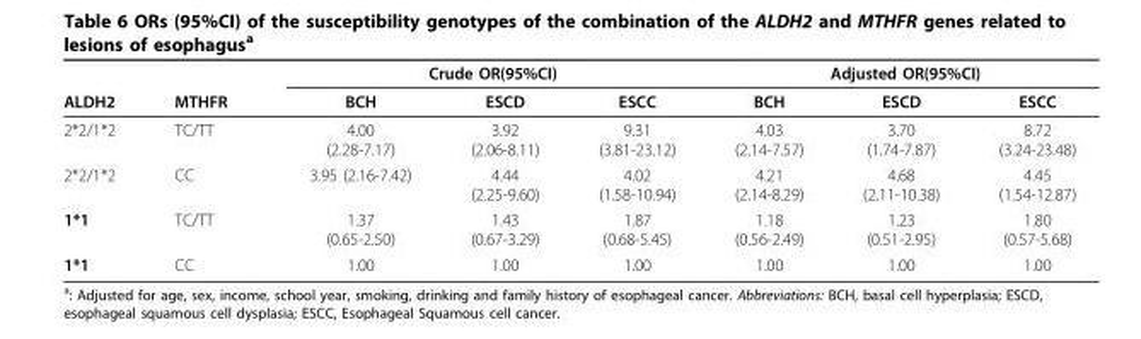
<table><thead><tr><td rowspan="2">ALDH2</td><td rowspan="2">MTHFR</td><td colspan="3">Crude OR(95%CI)</td><td colspan="3">Adjusted OR(95%CI)</td></tr><tr><td>BCH</td><td>ESCD</td><td>ESCC</td><td>BCH</td><td>ESCD</td><td>ESCC</td></tr></thead><tbody><tr><td>2*2/1*2</td><td>TC/TT</td><td>4.00 (2.28-7.17)</td><td>3.92 (2.06-8.11)</td><td>9.31 (3.81-23.12)</td><td>4.03 (2.14-7.57)</td><td>3.70 (1.74-7.87)</td><td>8.72 (3.24-23.48)</td></tr><tr><td>2*2/1*2</td><td>CC</td><td>3.95 (2.16-7.42)</td><td>4.44 (2.25-9.60)</td><td>4.02 (1.58-10.94)</td><td>4.21 (2.14-8.29)</td><td>4.68 (2.11-10.38)</td><td>4.45 (1.54-12.87)</td></tr><tr><td>1*1</td><td>TC/TT</td><td>1.37 (0.65-2.50)</td><td>1.43 (0.67-3.29)</td><td>1.87 (0.68-5.45)</td><td>1.18 (0.56-2.49)</td><td>1.23 (0.51-2.95)</td><td>1.80 (0.57-5.68)</td></tr><tr><td>1*1</td><td>CC</td><td>1.00</td><td>1.00</td><td>1.00</td><td>1.00</td><td>1.00</td><td>1.00</td></tr></tbody></table>